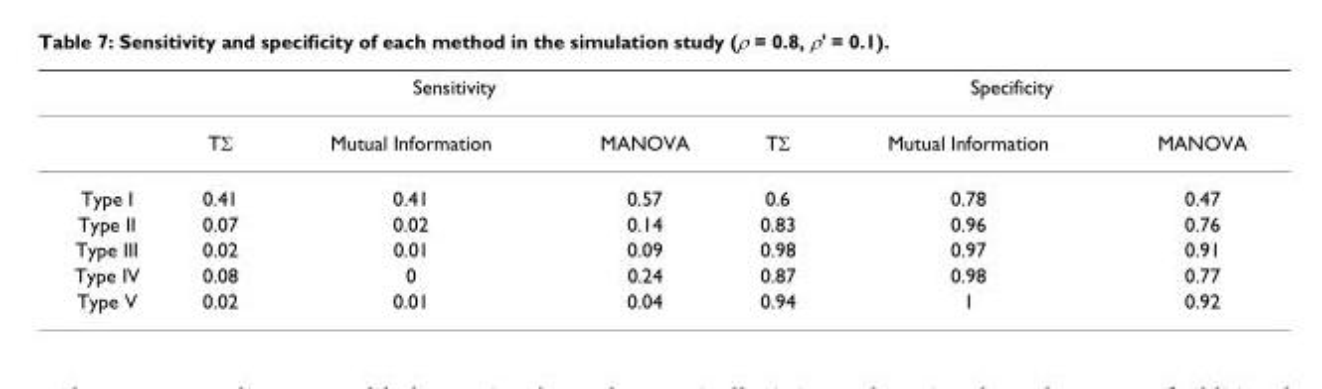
<table><thead><tr><td rowspan="2"></td><td colspan="3">Sensitivity</td><td colspan="3">Specificity</td></tr><tr><td>TΣ</td><td>Mutual Information</td><td>MANOVA</td><td>TΣ</td><td>Mutual Information</td><td>MANOVA</td></tr></thead><tbody><tr><td>Type I</td><td>0.41</td><td>0.41</td><td>0.57</td><td>0.6</td><td>0.78</td><td>0.47</td></tr><tr><td>Type II</td><td>0.07</td><td>0.02</td><td>0.14</td><td>0.83</td><td>0.96</td><td>0.76</td></tr><tr><td>Type III</td><td>0.02</td><td>0.01</td><td>0.09</td><td>0.98</td><td>0.97</td><td>0.91</td></tr><tr><td>Type IV</td><td>0.08</td><td>0</td><td>0.24</td><td>0.87</td><td>0.98</td><td>0.77</td></tr><tr><td>Type V</td><td>0.02</td><td>0.01</td><td>0.04</td><td>0.94</td><td>1</td><td>0.92</td></tr></tbody></table>